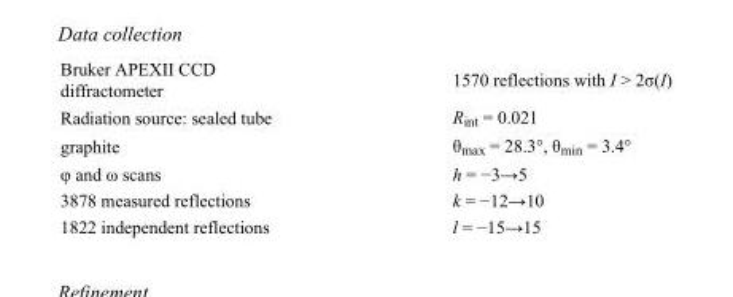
<table><tbody><tr><td>Bruker APEXII CCD diffractometer</td><td>1570 reflections with I &gt; 2σ(I)</td></tr><tr><td>Radiation source: sealed tube</td><td>R<sub>int</sub> = 0.021</td></tr><tr><td>graphite</td><td>θ<sub>max</sub> = 28.3°, θ<sub>min</sub> = 3.4°</td></tr><tr><td>φ and ω scans</td><td>h = −3→5</td></tr><tr><td>3878 measured reflections</td><td>k = −12→10</td></tr><tr><td>1822 independent reflections</td><td>l = −15→15</td></tr></tbody></table>